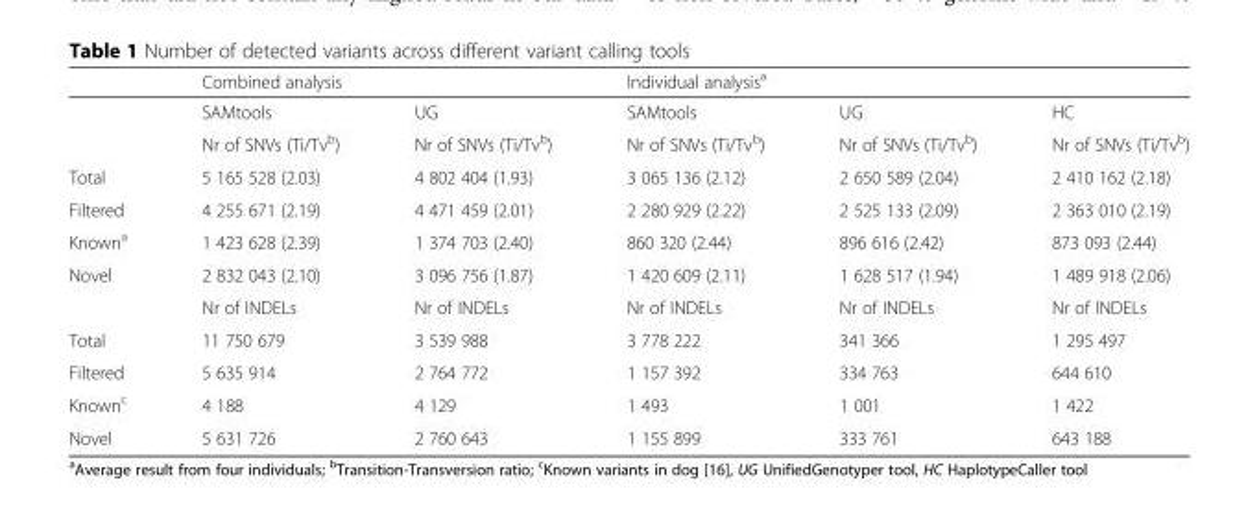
<table><thead><tr><td rowspan="2"></td><td colspan="2">Combined analysis</td><td colspan="3">Individual analysis<sup>a</sup></td></tr><tr><td>SAMtools</td><td>UG</td><td>SAMtools</td><td>UG</td><td>HC</td></tr></thead><tbody><tr><td></td><td>Nr of SNVs (Ti/Tv<sup>b</sup>)</td><td>Nr of SNVs (Ti/Tv<sup>b</sup>)</td><td>Nr of SNVs (Ti/Tv<sup>b</sup>)</td><td>Nr of SNVs (Ti/Tv<sup>b</sup>)</td><td>Nr of SNVs (Ti/Tv<sup>b</sup>)</td></tr><tr><td>Total</td><td>5 165 528 (2.03)</td><td>4 802 404 (1.93)</td><td>3 065 136 (2.12)</td><td>2 650 589 (2.04)</td><td>2 410 162 (2.18)</td></tr><tr><td>Filtered</td><td>4 255 671 (2.19)</td><td>4 471 459 (2.01)</td><td>2 280 929 (2.22)</td><td>2 525 133 (2.09)</td><td>2 363 010 (2.19)</td></tr><tr><td>Known<sup>a</sup></td><td>1 423 628 (2.39)</td><td>1 374 703 (2.40)</td><td>860 320 (2.44)</td><td>896 616 (2.42)</td><td>873 093 (2.44)</td></tr><tr><td rowspan="2">Novel</td><td>2 832 043 (2.10)</td><td>3 096 756 (1.87)</td><td>1 420 609 (2.11)</td><td>1 628 517 (1.94)</td><td>1 489 918 (2.06)</td></tr><tr><td>Nr of INDELs</td><td>Nr of INDELs</td><td>Nr of INDELs</td><td>Nr of INDELs</td><td>Nr of INDELs</td></tr><tr><td>Total</td><td>11 750 679</td><td>3 539 988</td><td>3 778 222</td><td>341 366</td><td>1 295 497</td></tr><tr><td>Filtered</td><td>5 635 914</td><td>2 764 772</td><td>1 157 392</td><td>334 763</td><td>644 610</td></tr><tr><td>Known<sup>c</sup></td><td>4 188</td><td>4 129</td><td>1 493</td><td>1 001</td><td>1 422</td></tr><tr><td>Novel</td><td>5 631 726</td><td>2 760 643</td><td>1 155 899</td><td>333 761</td><td>643 188</td></tr></tbody></table>